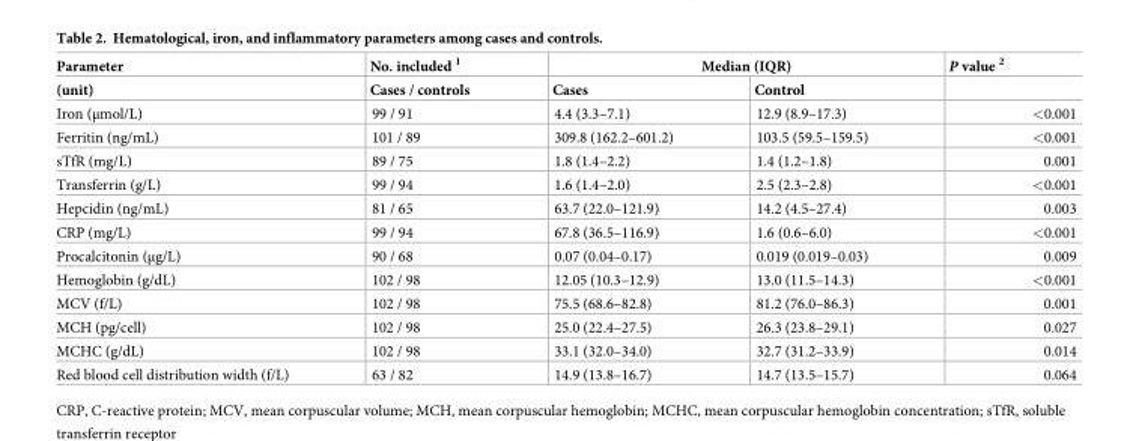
<table><thead><tr><td rowspan="2">Parameter (unit)</td><td rowspan="2">No. included <sup>1</sup> Cases / controls</td><td colspan="2">Median (IQR)</td><td rowspan="2">P value <sup>2</sup></td></tr><tr><td>Cases</td><td>Control</td></tr></thead><tbody><tr><td>Iron (μmol/L)</td><td>99 / 91</td><td>4.4 (3.3–7.1)</td><td>12.9 (8.9–17.3)</td><td>&lt;0.001</td></tr><tr><td>Ferritin (ng/mL)</td><td>101 / 89</td><td>309.8 (162.2–601.2)</td><td>103.5 (59.5–159.5)</td><td>&lt;0.001</td></tr><tr><td>sTfR (mg/L)</td><td>89 / 75</td><td>1.8 (1.4–2.2)</td><td>1.4 (1.2–1.8)</td><td>0.001</td></tr><tr><td>Transferrin (g/L)</td><td>99 / 94</td><td>1.6 (1.4–2.0)</td><td>2.5 (2.3–2.8)</td><td>&lt;0.001</td></tr><tr><td>Hepcidin (ng/mL)</td><td>81 / 65</td><td>63.7 (22.0–121.9)</td><td>14.2 (4.5–27.4)</td><td>0.003</td></tr><tr><td>CRP (mg/L)</td><td>99 / 94</td><td>67.8 (36.5–116.9)</td><td>1.6 (0.6–6.0)</td><td>&lt;0.001</td></tr><tr><td>Procalcitonin (μg/L)</td><td>90 / 68</td><td>0.07 (0.04–0.17)</td><td>0.019 (0.019–0.03)</td><td>0.009</td></tr><tr><td>Hemoglobin (g/dL)</td><td>102 / 98</td><td>12.05 (10.3–12.9)</td><td>13.0 (11.5–14.3)</td><td>&lt;0.001</td></tr><tr><td>MCV (f/L)</td><td>102 / 98</td><td>75.5 (68.6–82.8)</td><td>81.2 (76.0–86.3)</td><td>0.001</td></tr><tr><td>MCH (pg/cell)</td><td>102 / 98</td><td>25.0 (22.4–27.5)</td><td>26.3 (23.8–29.1)</td><td>0.027</td></tr><tr><td>MCHC (g/dL)</td><td>102 / 98</td><td>33.1 (32.0–34.0)</td><td>32.7 (31.2–33.9)</td><td>0.014</td></tr><tr><td>Red blood cell distribution width (f/L)</td><td>63 / 82</td><td>14.9 (13.8–16.7)</td><td>14.7 (13.5–15.7)</td><td>0.064</td></tr></tbody></table>